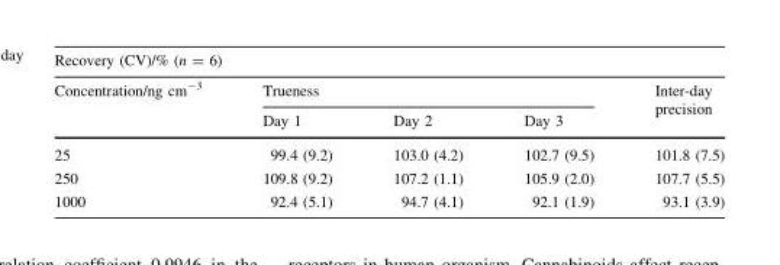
<table><thead><tr><td colspan="5">Recovery (CV)/% (n = 6)</td></tr><tr><td rowspan="2">Concentration/ng cm<sup>-3</sup></td><td colspan="3">Trueness</td><td rowspan="2">Inter-day precision</td></tr><tr><td>Day 1</td><td>Day 2</td><td>Day 3</td></tr></thead><tbody><tr><td>25</td><td>99.4 (9.2)</td><td>103.0 (4.2)</td><td>102.7 (9.5)</td><td>101.8 (7.5)</td></tr><tr><td>250</td><td>109.8 (9.2)</td><td>107.2 (1.1)</td><td>105.9 (2.0)</td><td>107.7 (5.5)</td></tr><tr><td>1000</td><td>92.4 (5.1)</td><td>94.7 (4.1)</td><td>92.1 (1.9)</td><td>93.1 (3.9)</td></tr></tbody></table>